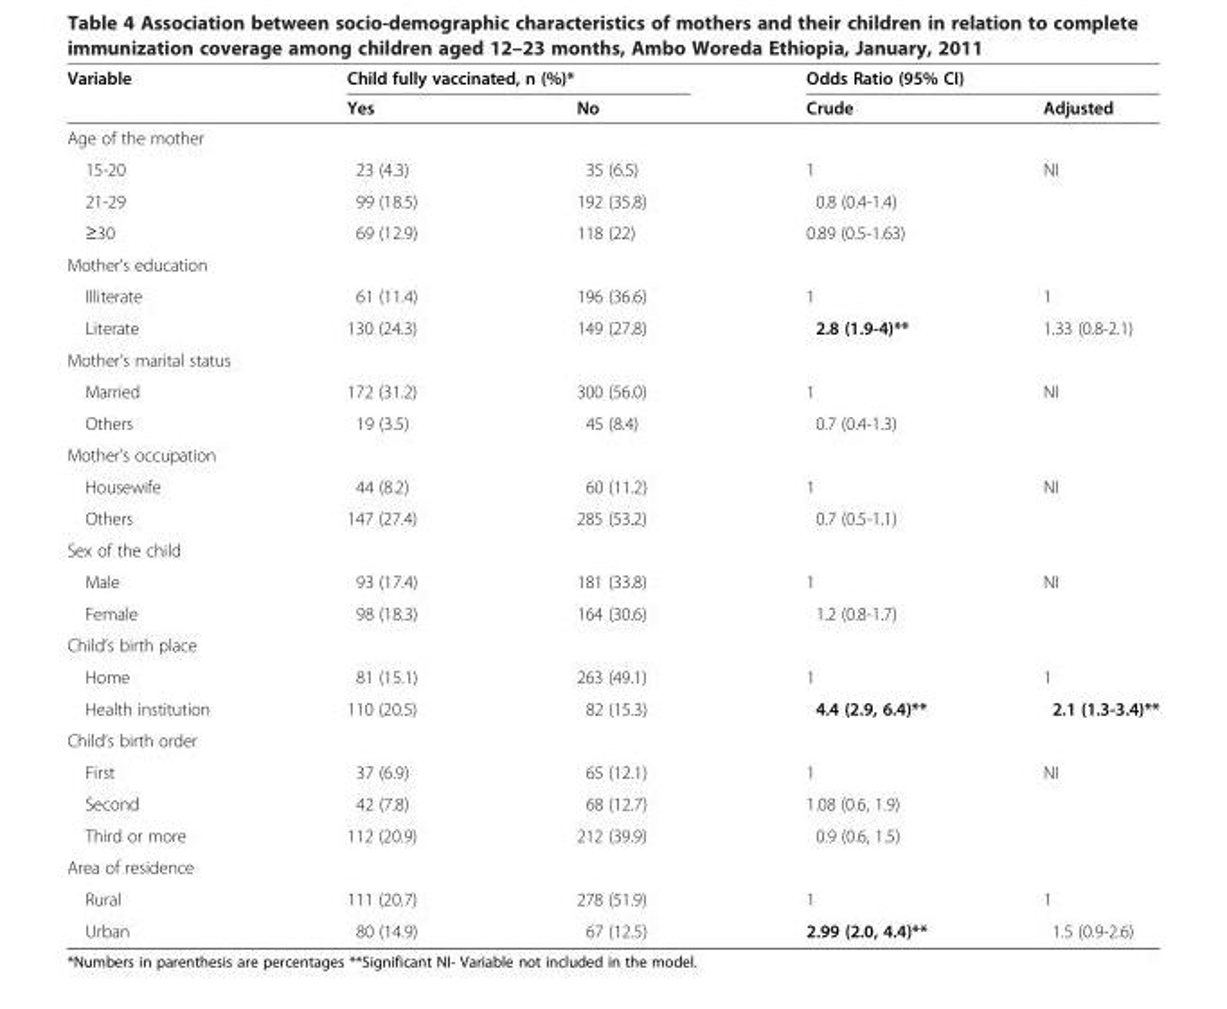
<table><thead><tr><td rowspan="2">Variable</td><td colspan="2">Child fully vaccinated, n (%)*</td><td colspan="2">Odds Ratio (95% CI)</td></tr><tr><td>Yes</td><td>No</td><td>Crude</td><td>Adjusted</td></tr></thead><tbody><tr><td colspan="5">Age of the mother</td></tr><tr><td>15-20</td><td>23 (4.3)</td><td>35 (6.5)</td><td>1</td><td>NI</td></tr><tr><td>21-29</td><td>99 (18.5)</td><td>192 (35.8)</td><td>0.8 (0.4-1.4)</td><td></td></tr><tr><td>≥30</td><td>69 (12.9)</td><td>118 (22)</td><td>0.89 (0.5-1.63)</td><td></td></tr><tr><td colspan="5">Mother’s education</td></tr><tr><td>Illiterate</td><td>61 (11.4)</td><td>196 (36.6)</td><td>1</td><td>1</td></tr><tr><td>Literate</td><td>130 (24.3)</td><td>149 (27.8)</td><td>2.8 (1.9-4)**</td><td>1.33 (0.8-2.1)</td></tr><tr><td colspan="5">Mother’s marital status</td></tr><tr><td>Married</td><td>172 (31.2)</td><td>300 (56.0)</td><td>1</td><td>NI</td></tr><tr><td>Others</td><td>19 (3.5)</td><td>45 (8.4)</td><td>0.7 (0.4-1.3)</td><td></td></tr><tr><td colspan="5">Mother’s occupation</td></tr><tr><td>Housewife</td><td>44 (8.2)</td><td>60 (11.2)</td><td>1</td><td>NI</td></tr><tr><td>Others</td><td>147 (27.4)</td><td>285 (53.2)</td><td>0.7 (0.5-1.1)</td><td></td></tr><tr><td colspan="5">Sex of the child</td></tr><tr><td>Male</td><td>93 (17.4)</td><td>181 (33.8)</td><td>1</td><td>NI</td></tr><tr><td>Female</td><td>98 (18.3)</td><td>164 (30.6)</td><td>1.2 (0.8-1.7)</td><td></td></tr><tr><td colspan="5">Child’s birth place</td></tr><tr><td>Home</td><td>81 (15.1)</td><td>263 (49.1)</td><td>1</td><td>1</td></tr><tr><td>Health institution</td><td>110 (20.5)</td><td>82 (15.3)</td><td>4.4 (2.9, 6.4)**</td><td>2.1 (1.3-3.4)**</td></tr><tr><td colspan="5">Child’s birth order</td></tr><tr><td>First</td><td>37 (6.9)</td><td>65 (12.1)</td><td>1</td><td>NI</td></tr><tr><td>Second</td><td>42 (7.8)</td><td>68 (12.7)</td><td>1.08 (0.6, 1.9)</td><td></td></tr><tr><td>Third or more</td><td>112 (20.9)</td><td>212 (39.9)</td><td>0.9 (0.6, 1.5)</td><td></td></tr><tr><td colspan="5">Area of residence</td></tr><tr><td>Rural</td><td>111 (20.7)</td><td>278 (51.9)</td><td>1</td><td>1</td></tr><tr><td>Urban</td><td>80 (14.9)</td><td>67 (12.5)</td><td>2.99 (2.0, 4.4)**</td><td>1.5 (0.9-2.6)</td></tr></tbody></table>